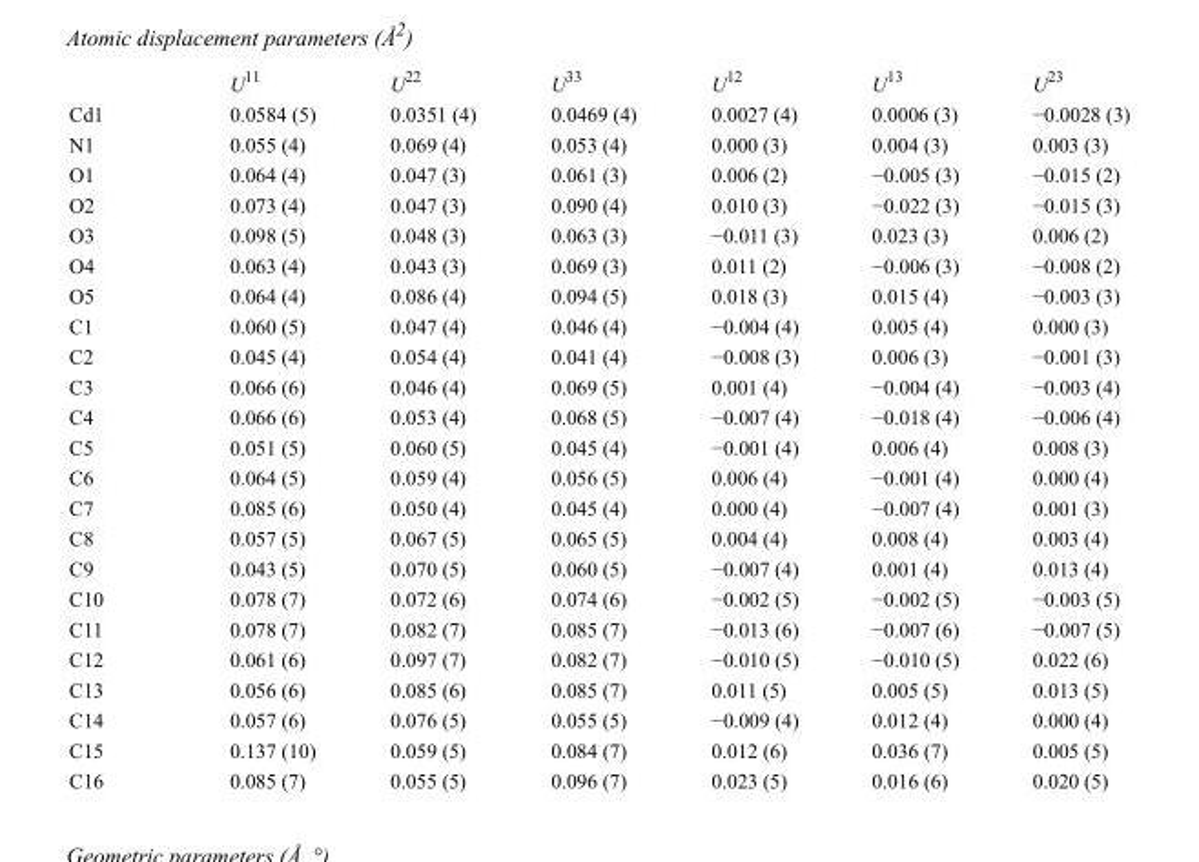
<table><thead><tr><td></td><td>U<sup>11</sup></td><td>U<sup>22</sup></td><td>U<sup>33</sup></td><td>U<sup>12</sup></td><td>U<sup>13</sup></td><td>U<sup>23</sup></td></tr></thead><tbody><tr><td>Cd1</td><td>0.0584 (5)</td><td>0.0351 (4)</td><td>0.0469 (4)</td><td>0.0027 (4)</td><td>0.0006 (3)</td><td>−0.0028 (3)</td></tr><tr><td>N1</td><td>0.055 (4)</td><td>0.069 (4)</td><td>0.053 (4)</td><td>0.000 (3)</td><td>0.004 (3)</td><td>0.003 (3)</td></tr><tr><td>O1</td><td>0.064 (4)</td><td>0.047 (3)</td><td>0.061 (3)</td><td>0.006 (2)</td><td>−0.005 (3)</td><td>−0.015 (2)</td></tr><tr><td>O2</td><td>0.073 (4)</td><td>0.047 (3)</td><td>0.090 (4)</td><td>0.010 (3)</td><td>−0.022 (3)</td><td>−0.015 (3)</td></tr><tr><td>O3</td><td>0.098 (5)</td><td>0.048 (3)</td><td>0.063 (3)</td><td>−0.011 (3)</td><td>0.023 (3)</td><td>0.006 (2)</td></tr><tr><td>O4</td><td>0.063 (4)</td><td>0.043 (3)</td><td>0.069 (3)</td><td>0.011 (2)</td><td>−0.006 (3)</td><td>−0.008 (2)</td></tr><tr><td>O5</td><td>0.064 (4)</td><td>0.086 (4)</td><td>0.094 (5)</td><td>0.018 (3)</td><td>0.015 (4)</td><td>−0.003 (3)</td></tr><tr><td>C1</td><td>0.060 (5)</td><td>0.047 (4)</td><td>0.046 (4)</td><td>−0.004 (4)</td><td>0.005 (4)</td><td>0.000 (3)</td></tr><tr><td>C2</td><td>0.045 (4)</td><td>0.054 (4)</td><td>0.041 (4)</td><td>−0.008 (3)</td><td>0.006 (3)</td><td>−0.001 (3)</td></tr><tr><td>C3</td><td>0.066 (6)</td><td>0.046 (4)</td><td>0.069 (5)</td><td>0.001 (4)</td><td>−0.004 (4)</td><td>−0.003 (4)</td></tr><tr><td>C4</td><td>0.066 (6)</td><td>0.053 (4)</td><td>0.068 (5)</td><td>−0.007 (4)</td><td>−0.018 (4)</td><td>−0.006 (4)</td></tr><tr><td>C5</td><td>0.051 (5)</td><td>0.060 (5)</td><td>0.045 (4)</td><td>−0.001 (4)</td><td>0.006 (4)</td><td>0.008 (3)</td></tr><tr><td>C6</td><td>0.064 (5)</td><td>0.059 (4)</td><td>0.056 (5)</td><td>0.006 (4)</td><td>−0.001 (4)</td><td>0.000 (4)</td></tr><tr><td>C7</td><td>0.085 (6)</td><td>0.050 (4)</td><td>0.045 (4)</td><td>0.000 (4)</td><td>−0.007 (4)</td><td>0.001 (3)</td></tr><tr><td>C8</td><td>0.057 (5)</td><td>0.067 (5)</td><td>0.065 (5)</td><td>0.004 (4)</td><td>0.008 (4)</td><td>0.003 (4)</td></tr><tr><td>C9</td><td>0.043 (5)</td><td>0.070 (5)</td><td>0.060 (5)</td><td>−0.007 (4)</td><td>0.001 (4)</td><td>0.013 (4)</td></tr><tr><td>C10</td><td>0.078 (7)</td><td>0.072 (6)</td><td>0.074 (6)</td><td>−0.002 (5)</td><td>−0.002 (5)</td><td>−0.003 (5)</td></tr><tr><td>C11</td><td>0.078 (7)</td><td>0.082 (7)</td><td>0.085 (7)</td><td>−0.013 (6)</td><td>−0.007 (6)</td><td>−0.007 (5)</td></tr><tr><td>C12</td><td>0.061 (6)</td><td>0.097 (7)</td><td>0.082 (7)</td><td>−0.010 (5)</td><td>−0.010 (5)</td><td>0.022 (6)</td></tr><tr><td>C13</td><td>0.056 (6)</td><td>0.085 (6)</td><td>0.085 (7)</td><td>0.011 (5)</td><td>0.005 (5)</td><td>0.013 (5)</td></tr><tr><td>C14</td><td>0.057 (6)</td><td>0.076 (5)</td><td>0.055 (5)</td><td>−0.009 (4)</td><td>0.012 (4)</td><td>0.000 (4)</td></tr><tr><td>C15</td><td>0.137 (10)</td><td>0.059 (5)</td><td>0.084 (7)</td><td>0.012 (6)</td><td>0.036 (7)</td><td>0.005 (5)</td></tr><tr><td>C16</td><td>0.085 (7)</td><td>0.055 (5)</td><td>0.096 (7)</td><td>0.023 (5)</td><td>0.016 (6)</td><td>0.020 (5)</td></tr></tbody></table>